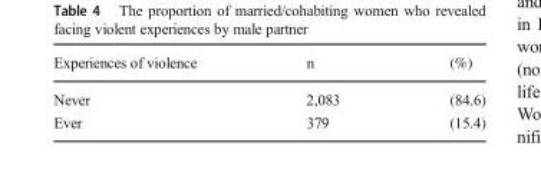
<table><thead><tr><td>Experiences of violence</td><td>n</td><td>(%)</td></tr></thead><tbody><tr><td>Never</td><td>2,083</td><td>(84.6)</td></tr><tr><td>Ever</td><td>379</td><td>(15.4)</td></tr></tbody></table>